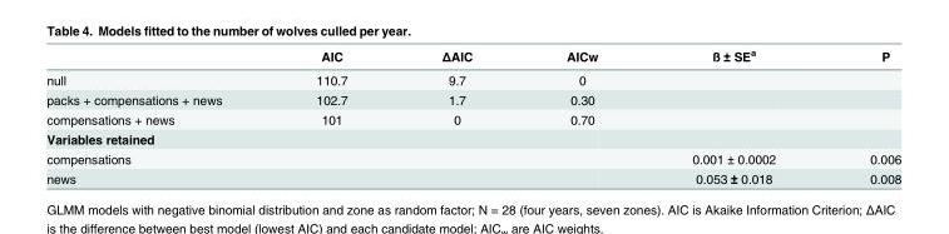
<table><thead><tr><td></td><td>AIC</td><td>ΔAIC</td><td>AICw</td><td>ß ± SE<sup>a</sup></td><td>P</td></tr></thead><tbody><tr><td>null</td><td>110.7</td><td>9.7</td><td>0</td><td></td><td></td></tr><tr><td>packs + compensations + news</td><td>102.7</td><td>1.7</td><td>0.30</td><td></td><td></td></tr><tr><td>compensations + news</td><td>101</td><td>0</td><td>0.70</td><td></td><td></td></tr><tr><td colspan="6">Variables retained</td></tr><tr><td>compensations</td><td></td><td></td><td></td><td>0.001 ± 0.0002</td><td>0.006</td></tr><tr><td>news</td><td></td><td></td><td></td><td>0.053 ± 0.018</td><td>0.008</td></tr></tbody></table>